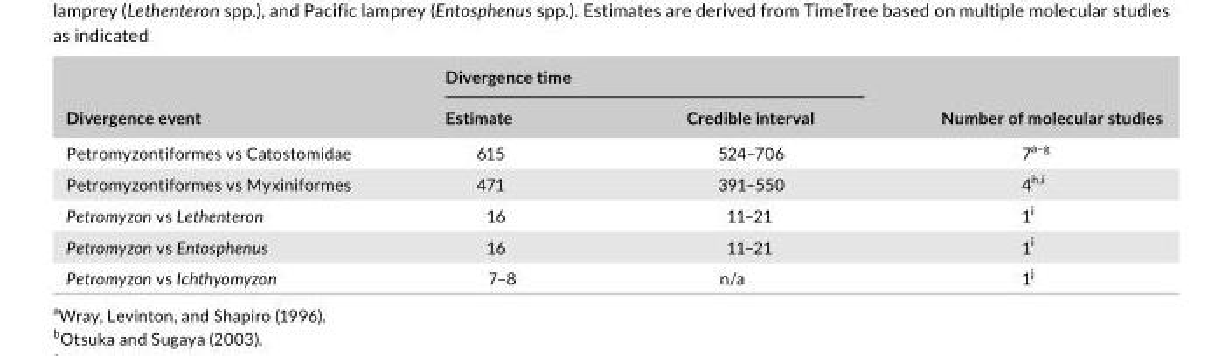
<table><thead><tr><td rowspan="2">Divergence event</td><td colspan="2">Divergence time</td><td rowspan="2">Number of molecular studies</td></tr><tr><td>Estimate</td><td>Credible interval</td></tr></thead><tbody><tr><td>Petromyzontiformes vs Catostomidae</td><td>615</td><td>524–706</td><td>7a–g</td></tr><tr><td>Petromyzontiformes vs Myxiniformes</td><td>471</td><td>391–550</td><td>4<sup>h,</sup>i</td></tr><tr><td>Petromyzon vs Lethenteron</td><td>16</td><td>11–21</td><td>1<sup>i</sup></td></tr><tr><td>Petromyzon vs Entosphenus</td><td>16</td><td>11–21</td><td>1<sup>i</sup></td></tr><tr><td>Petromyzon vs Ichthyomyzon</td><td>7–8</td><td>n/a</td><td>1<sup>j</sup></td></tr></tbody></table>